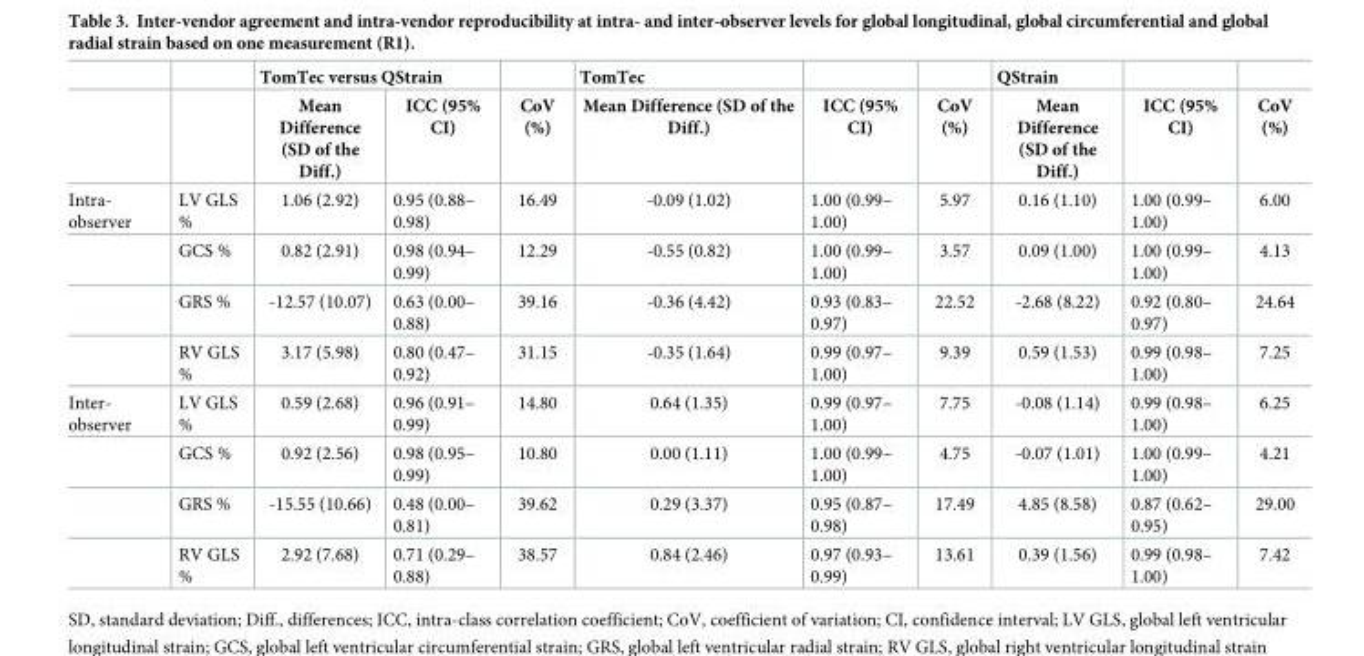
<table><thead><tr><td rowspan="2"></td><td rowspan="2"></td><td colspan="2">TomTec versus QStrain</td><td rowspan="2">CoV (%)</td><td rowspan="2">TomTec Mean Difference (SD of the Diff.)</td><td rowspan="2">ICC (95% CI)</td><td rowspan="2">CoV (%)</td><td rowspan="2">QStrain Mean Difference (SD of the Diff.)</td><td rowspan="2">ICC (95% CI)</td><td rowspan="2">CoV (%)</td></tr><tr><td>Mean Difference (SD of the Diff.)</td><td>ICC (95% CI)</td></tr></thead><tbody><tr><td rowspan="4">Intra- observer</td><td>LV GLS %</td><td>1.06 (2.92)</td><td>0.95 (0.88– 0.98)</td><td>16.49</td><td>-0.09 (1.02)</td><td>1.00 (0.99– 1.00)</td><td>5.97</td><td>0.16 (1.10)</td><td>1.00 (0.99– 1.00)</td><td>6.00</td></tr><tr><td>GCS %</td><td>0.82 (2.91)</td><td>0.98 (0.94– 0.99)</td><td>12.29</td><td>-0.55 (0.82)</td><td>1.00 (0.99– 1.00)</td><td>3.57</td><td>0.09 (1.00)</td><td>1.00 (0.99– 1.00)</td><td>4.13</td></tr><tr><td>GRS %</td><td>-12.57 (10.07)</td><td>0.63 (0.00– 0.88)</td><td>39.16</td><td>-0.36 (4.42)</td><td>0.93 (0.83– 0.97)</td><td>22.52</td><td>-2.68 (8.22)</td><td>0.92 (0.80– 0.97)</td><td>24.64</td></tr><tr><td>RV GLS %</td><td>3.17 (5.98)</td><td>0.80 (0.47– 0.92)</td><td>31.15</td><td>-0.35 (1.64)</td><td>0.99 (0.97– 1.00)</td><td>9.39</td><td>0.59 (1.53)</td><td>0.99 (0.98– 1.00)</td><td>7.25</td></tr><tr><td rowspan="4">Inter- observer</td><td>LV GLS %</td><td>0.59 (2.68)</td><td>0.96 (0.91– 0.99)</td><td>14.80</td><td>0.64 (1.35)</td><td>0.99 (0.97– 1.00)</td><td>7.75</td><td>-0.08 (1.14)</td><td>0.99 (0.98– 1.00)</td><td>6.25</td></tr><tr><td>GCS %</td><td>0.92 (2.56)</td><td>0.98 (0.95– 0.99)</td><td>10.80</td><td>0.00 (1.11)</td><td>1.00 (0.99– 1.00)</td><td>4.75</td><td>-0.07 (1.01)</td><td>1.00 (0.99– 1.00)</td><td>4.21</td></tr><tr><td>GRS %</td><td>-15.55 (10.66)</td><td>0.48 (0.00– 0.81)</td><td>39.62</td><td>0.29 (3.37)</td><td>0.95 (0.87– 0.98)</td><td>17.49</td><td>4.85 (8.58)</td><td>0.87 (0.62– 0.95)</td><td>29.00</td></tr><tr><td>RV GLS %</td><td>2.92 (7.68)</td><td>0.71 (0.29– 0.88)</td><td>38.57</td><td>0.84 (2.46)</td><td>0.97 (0.93– 0.99)</td><td>13.61</td><td>0.39 (1.56)</td><td>0.99 (0.98– 1.00)</td><td>7.42</td></tr></tbody></table>